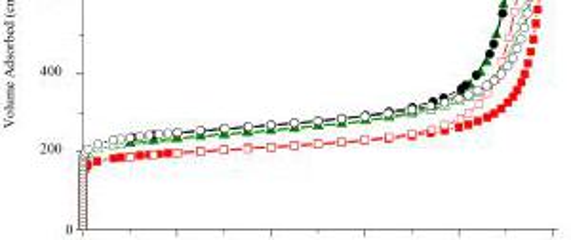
<table><thead><tr><td></td><td>S<sub>BET</sub> (m<sup>2</sup>∙g<sup>−1</sup>)</td><td>V<sub>mic</sub> (cm<sup>3</sup>∙g<sup>−1</sup>)</td><td>V<sub>total</sub> (cm<sup>3</sup>∙g<sup>−1</sup>)</td></tr></thead><tbody><tr><td>Na-X</td><td>880</td><td>0.30</td><td>1.40</td></tr><tr><td>F-X</td><td>825</td><td>0.27</td><td>1.28</td></tr><tr><td>Ce-X</td><td>875</td><td>0.28</td><td>1.35</td></tr></tbody></table>